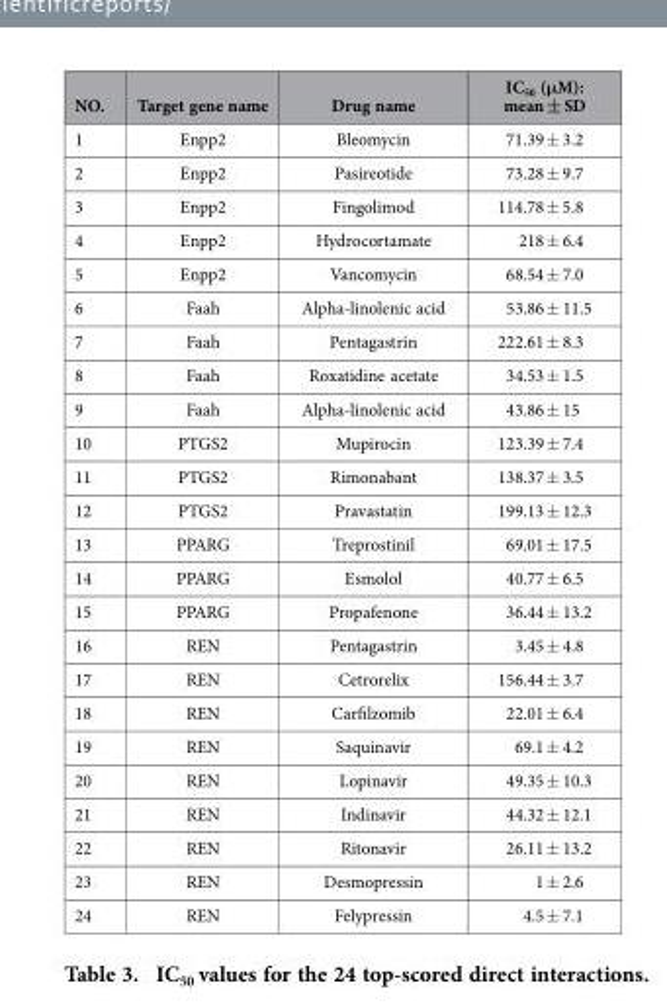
<table><thead><tr><td>NO.</td><td>Target gene name</td><td>Drug name</td><td>IC<sub>50</sub> (μM): mean ± SD</td></tr></thead><tbody><tr><td>1</td><td>Enpp2</td><td>Bleomycin</td><td>71.39 ± 3.2</td></tr><tr><td>2</td><td>Enpp2</td><td>Pasireotide</td><td>73.28 ± 9.7</td></tr><tr><td>3</td><td>Enpp2</td><td>Fingolimod</td><td>114.78 ± 5.8</td></tr><tr><td>4</td><td>Enpp2</td><td>Hydrocortamate</td><td>218 ± 6.4</td></tr><tr><td>5</td><td>Enpp2</td><td>Vancomycin</td><td>68.54 ± 7.0</td></tr><tr><td>6</td><td>Faah</td><td>Alpha-linolenic acid</td><td>53.86 ± 11.5</td></tr><tr><td>7</td><td>Faah</td><td>Pentagastrin</td><td>222.61 ± 8.3</td></tr><tr><td>8</td><td>Faah</td><td>Roxatidine acetate</td><td>34.53 ± 1.5</td></tr><tr><td>9</td><td>Faah</td><td>Alpha-linolenic acid</td><td>43.86 ± 15</td></tr><tr><td>10</td><td>PTGS2</td><td>Mupirocin</td><td>123.39 ± 7.4</td></tr><tr><td>11</td><td>PTGS2</td><td>Rimonabant</td><td>138.37 ± 3.5</td></tr><tr><td>12</td><td>PTGS2</td><td>Pravastatin</td><td>199.13 ± 12.3</td></tr><tr><td>13</td><td>PPARG</td><td>Treprostinil</td><td>69.01 ± 17.5</td></tr><tr><td>14</td><td>PPARG</td><td>Esmolol</td><td>40.77 ± 6.5</td></tr><tr><td>15</td><td>PPARG</td><td>Propafenone</td><td>36.44 ± 13.2</td></tr><tr><td>16</td><td>REN</td><td>Pentagastrin</td><td>3.45 ± 4.8</td></tr><tr><td>17</td><td>REN</td><td>Cetrorelix</td><td>156.44 ± 3.7</td></tr><tr><td>18</td><td>REN</td><td>Carfilzomib</td><td>22.01 ± 6.4</td></tr><tr><td>19</td><td>REN</td><td>Saquinavir</td><td>69.1 ± 4.2</td></tr><tr><td>20</td><td>REN</td><td>Lopinavir</td><td>49.35 ± 10.3</td></tr><tr><td>21</td><td>REN</td><td>Indinavir</td><td>44.32 ± 12.1</td></tr><tr><td>22</td><td>REN</td><td>Ritonavir</td><td>26.11 ± 13.2</td></tr><tr><td>23</td><td>REN</td><td>Desmopressin</td><td>1 ± 2.6</td></tr><tr><td>24</td><td>REN</td><td>Felypressin</td><td>4.5 ± 7.1</td></tr></tbody></table>